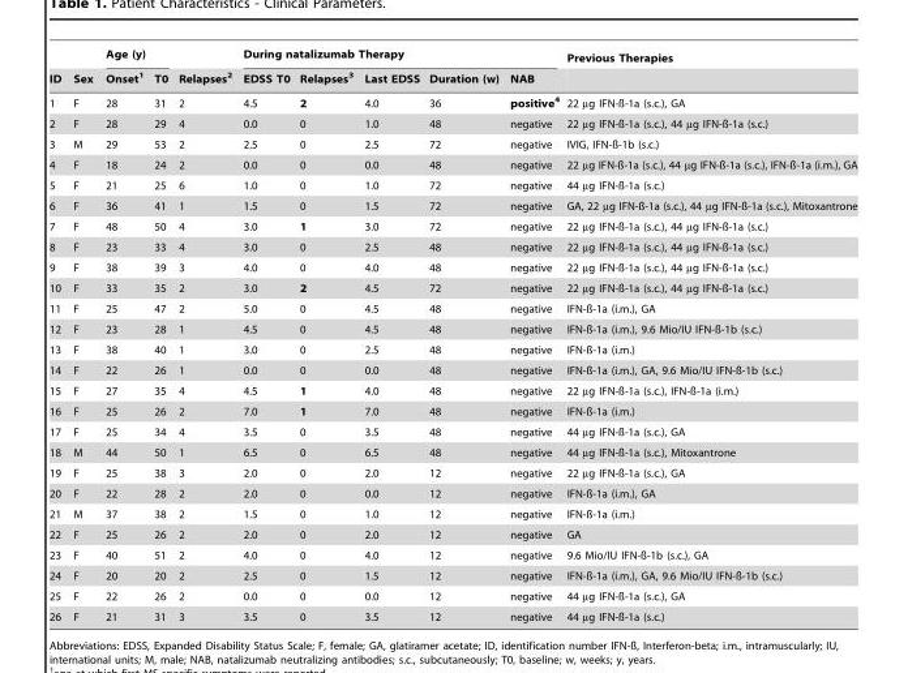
<table><thead><tr><td rowspan="2">ID</td><td rowspan="2">Sex</td><td colspan="2">Age (y)</td><td rowspan="2">Relapses<sup>2</sup></td><td colspan="5">During natalizumab Therapy</td><td rowspan="2">Previous Therapies</td></tr><tr><td>Onset<sup>1</sup></td><td>T0</td><td>EDSS T0</td><td>Relapses<sup>3</sup></td><td>Last EDSS</td><td>Duration (w)</td><td>NAB</td></tr></thead><tbody><tr><td>1</td><td>F</td><td>28</td><td>31</td><td>2</td><td>4.5</td><td>2</td><td>4.0</td><td>36</td><td>positive4</td><td>22 µg IFN-ß-1a (s.c.), GA</td></tr><tr><td>2</td><td>F</td><td>28</td><td>29</td><td>4</td><td>0.0</td><td>0</td><td>1.0</td><td>48</td><td>negative</td><td>22 µg IFN-ß-1a (s.c.), 44 µg IFN-ß-1a (s.c.)</td></tr><tr><td>3</td><td>M</td><td>29</td><td>53</td><td>2</td><td>2.5</td><td>0</td><td>2.5</td><td>72</td><td>negative</td><td>IVIG, IFN-ß-1b (s.c.)</td></tr><tr><td>4</td><td>F</td><td>18</td><td>24</td><td>2</td><td>0.0</td><td>0</td><td>0.0</td><td>48</td><td>negative</td><td>22 µg IFN-ß-1a (s.c.), 44 µg IFN-ß-1a (s.c.), IFN-ß-1a (i.m.), GA</td></tr><tr><td>5</td><td>F</td><td>21</td><td>25</td><td>6</td><td>1.0</td><td>0</td><td>1.0</td><td>72</td><td>negative</td><td>44 µg IFN-ß-1a (s.c.)</td></tr><tr><td>6</td><td>F</td><td>36</td><td>41</td><td>1</td><td>1.5</td><td>0</td><td>1.5</td><td>72</td><td>negative</td><td>GA, 22 µg IFN-ß-1a (s.c.), 44 µg IFN-ß-1a (s.c.), Mitoxantrone</td></tr><tr><td>7</td><td>F</td><td>48</td><td>50</td><td>4</td><td>3.0</td><td>1</td><td>3.0</td><td>72</td><td>negative</td><td>22 µg IFN-ß-1a (s.c.), 44 µg IFN-ß-1a (s.c.)</td></tr><tr><td>8</td><td>F</td><td>23</td><td>33</td><td>4</td><td>3.0</td><td>0</td><td>2.5</td><td>48</td><td>negative</td><td>22 µg IFN-ß-1a (s.c.), 44 µg IFN-ß-1a (s.c.)</td></tr><tr><td>9</td><td>F</td><td>38</td><td>39</td><td>3</td><td>4.0</td><td>0</td><td>4.0</td><td>48</td><td>negative</td><td>22 µg IFN-ß-1a (s.c.), 44 µg IFN-ß-1a (s.c.)</td></tr><tr><td>10</td><td>F</td><td>33</td><td>35</td><td>2</td><td>3.0</td><td>2</td><td>4.5</td><td>72</td><td>negative</td><td>22 µg IFN-ß-1a (s.c.), 44 µg IFN-ß-1a (s.c.)</td></tr><tr><td>11</td><td>F</td><td>25</td><td>47</td><td>2</td><td>5.0</td><td>0</td><td>4.5</td><td>48</td><td>negative</td><td>IFN-ß-1a (i.m.), GA</td></tr><tr><td>12</td><td>F</td><td>23</td><td>28</td><td>1</td><td>4.5</td><td>0</td><td>4.5</td><td>48</td><td>negative</td><td>IFN-ß-1a (i.m.), 9.6 Mio/IU IFN-ß-1b (s.c.)</td></tr><tr><td>13</td><td>F</td><td>38</td><td>40</td><td>1</td><td>3.0</td><td>0</td><td>2.5</td><td>48</td><td>negative</td><td>IFN-ß-1a (i.m.)</td></tr><tr><td>14</td><td>F</td><td>22</td><td>26</td><td>1</td><td>0.0</td><td>0</td><td>0.0</td><td>48</td><td>negative</td><td>IFN-ß-1a (i.m.), GA, 9.6 Mio/IU IFN-ß-1b (s.c.)</td></tr><tr><td>15</td><td>F</td><td>27</td><td>35</td><td>4</td><td>4.5</td><td>1</td><td>4.0</td><td>48</td><td>negative</td><td>22 µg IFN-ß-1a (s.c.), IFN-ß-1a (i.m.)</td></tr><tr><td>16</td><td>F</td><td>25</td><td>26</td><td>2</td><td>7.0</td><td>1</td><td>7.0</td><td>48</td><td>negative</td><td>IFN-ß-1a (i.m.)</td></tr><tr><td>17</td><td>F</td><td>25</td><td>34</td><td>4</td><td>3.5</td><td>0</td><td>3.5</td><td>48</td><td>negative</td><td>44 µg IFN-ß-1a (s.c.), GA</td></tr><tr><td>18</td><td>M</td><td>44</td><td>50</td><td>1</td><td>6.5</td><td>0</td><td>6.5</td><td>48</td><td>negative</td><td>44 µg IFN-ß-1a (s.c.), Mitoxantrone</td></tr><tr><td>19</td><td>F</td><td>25</td><td>38</td><td>3</td><td>2.0</td><td>0</td><td>2.0</td><td>12</td><td>negative</td><td>22 µg IFN-ß-1a (s.c.), GA</td></tr><tr><td>20</td><td>F</td><td>22</td><td>28</td><td>2</td><td>2.0</td><td>0</td><td>0.0</td><td>12</td><td>negative</td><td>IFN-ß-1a (i.m.), GA</td></tr><tr><td>21</td><td>M</td><td>37</td><td>38</td><td>2</td><td>1.5</td><td>0</td><td>1.0</td><td>12</td><td>negative</td><td>IFN-ß-1a (i.m.)</td></tr><tr><td>22</td><td>F</td><td>25</td><td>26</td><td>2</td><td>2.0</td><td>0</td><td>2.0</td><td>12</td><td>negative</td><td>GA</td></tr><tr><td>23</td><td>F</td><td>40</td><td>51</td><td>2</td><td>4.0</td><td>0</td><td>4.0</td><td>12</td><td>negative</td><td>9.6 Mio/IU IFN-ß-1b (s.c.), GA</td></tr><tr><td>24</td><td>F</td><td>20</td><td>20</td><td>2</td><td>2.5</td><td>0</td><td>1.5</td><td>12</td><td>negative</td><td>IFN-ß-1a (i.m.), GA, 9.6 Mio/IU IFN-ß-1b (s.c.)</td></tr><tr><td>25</td><td>F</td><td>22</td><td>26</td><td>2</td><td>0.0</td><td>0</td><td>0.0</td><td>12</td><td>negative</td><td>44 µg IFN-ß-1a (s.c.), GA</td></tr><tr><td>26</td><td>F</td><td>21</td><td>31</td><td>3</td><td>3.5</td><td>0</td><td>3.5</td><td>12</td><td>negative</td><td>44 µg IFN-ß-1a (s.c.)</td></tr></tbody></table>